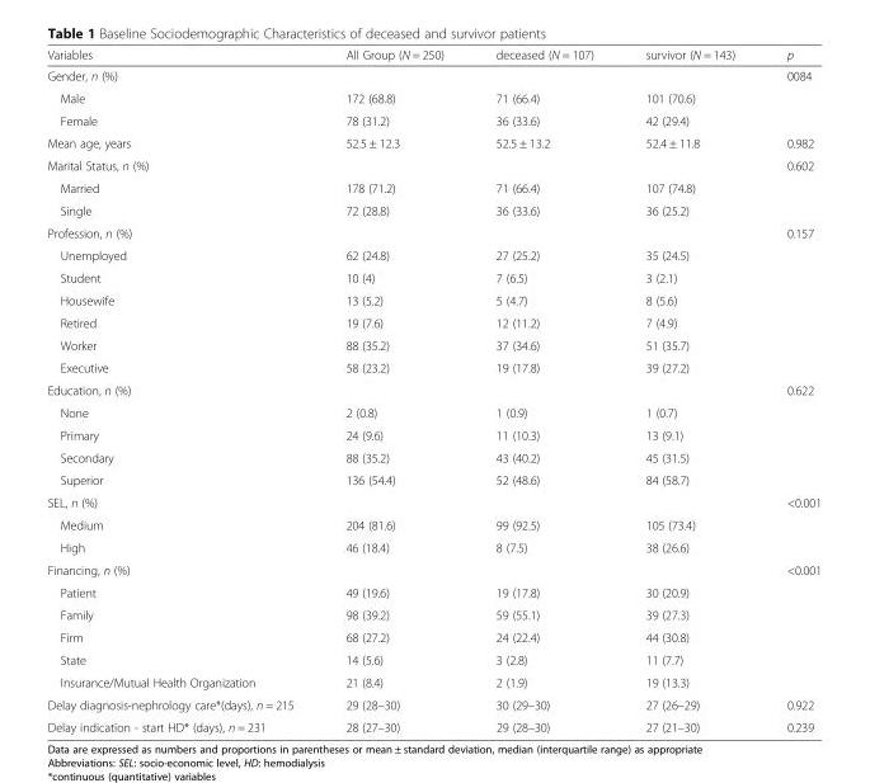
<table><thead><tr><td>Variables</td><td>All Group (N = 250)</td><td>deceased (N = 107)</td><td>survivor (N = 143)</td><td>p</td></tr></thead><tbody><tr><td colspan="4">Gender, n (%)</td><td rowspan="3">0084</td></tr><tr><td>Male</td><td>172 (68.8)</td><td>71 (66.4)</td><td>101 (70.6)</td></tr><tr><td>Female</td><td>78 (31.2)</td><td>36 (33.6)</td><td>42 (29.4)</td></tr><tr><td>Mean age, years</td><td>52.5 ± 12.3</td><td>52.5 ± 13.2</td><td>52.4 ± 11.8</td><td>0.982</td></tr><tr><td colspan="4">Marital Status, n (%)</td><td rowspan="3">0.602</td></tr><tr><td>Married</td><td>178 (71.2)</td><td>71 (66.4)</td><td>107 (74.8)</td></tr><tr><td>Single</td><td>72 (28.8)</td><td>36 (33.6)</td><td>36 (25.2)</td></tr><tr><td colspan="4">Profession, n (%)</td><td rowspan="7">0.157</td></tr><tr><td>Unemployed</td><td>62 (24.8)</td><td>27 (25.2)</td><td>35 (24.5)</td></tr><tr><td>Student</td><td>10 (4)</td><td>7 (6.5)</td><td>3 (2.1)</td></tr><tr><td>Housewife</td><td>13 (5.2)</td><td>5 (4.7)</td><td>8 (5.6)</td></tr><tr><td>Retired</td><td>19 (7.6)</td><td>12 (11.2)</td><td>7 (4.9)</td></tr><tr><td>Worker</td><td>88 (35.2)</td><td>37 (34.6)</td><td>51 (35.7)</td></tr><tr><td>Executive</td><td>58 (23.2)</td><td>19 (17.8)</td><td>39 (27.2)</td></tr><tr><td colspan="4">Education, n (%)</td><td rowspan="5">0.622</td></tr><tr><td>None</td><td>2 (0.8)</td><td>1 (0.9)</td><td>1 (0.7)</td></tr><tr><td>Primary</td><td>24 (9.6)</td><td>11 (10.3)</td><td>13 (9.1)</td></tr><tr><td>Secondary</td><td>88 (35.2)</td><td>43 (40.2)</td><td>45 (31.5)</td></tr><tr><td>Superior</td><td>136 (54.4)</td><td>52 (48.6)</td><td>84 (58.7)</td></tr><tr><td colspan="4">SEL, n (%)</td><td rowspan="3">&lt;0.001</td></tr><tr><td>Medium</td><td>204 (81.6)</td><td>99 (92.5)</td><td>105 (73.4)</td></tr><tr><td>High</td><td>46 (18.4)</td><td>8 (7.5)</td><td>38 (26.6)</td></tr><tr><td colspan="4">Financing, n (%)</td><td rowspan="6">&lt;0.001</td></tr><tr><td>Patient</td><td>49 (19.6)</td><td>19 (17.8)</td><td>30 (20.9)</td></tr><tr><td>Family</td><td>98 (39.2)</td><td>59 (55.1)</td><td>39 (27.3)</td></tr><tr><td>Firm</td><td>68 (27.2)</td><td>24 (22.4)</td><td>44 (30.8)</td></tr><tr><td>State</td><td>14 (5.6)</td><td>3 (2.8)</td><td>11 (7.7)</td></tr><tr><td>Insurance/Mutual Health Organization</td><td>21 (8.4)</td><td>2 (1.9)</td><td>19 (13.3)</td></tr><tr><td>Delay diagnosis-nephrology care*(days), n = 215</td><td>29 (28–30)</td><td>30 (29–30)</td><td>27 (26–29)</td><td>0.922</td></tr><tr><td>Delay indication - start HD* (days), n = 231</td><td>28 (27–30)</td><td>29 (28–30)</td><td>27 (21–30)</td><td>0.239</td></tr></tbody></table>